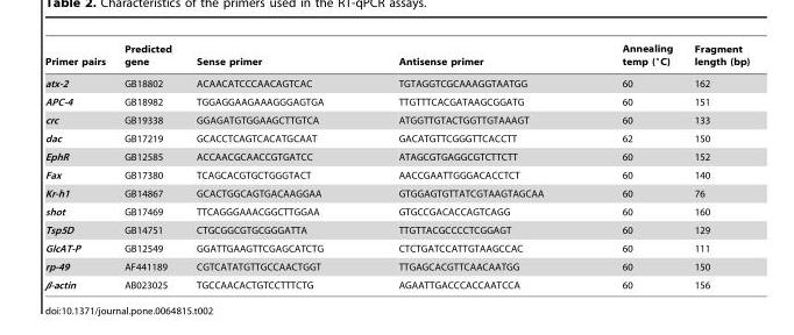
<table><thead><tr><td>Primer pairs</td><td>Predicted gene</td><td>Sense primer</td><td>Antisense primer</td><td>Annealing temp (°C)</td><td>Fragment length (bp)</td></tr></thead><tbody><tr><td>atx-2</td><td>GB18802</td><td>ACAACATCCCAACAGTCAC</td><td>TGTAGGTCGCAAAGGTAATGG</td><td>60</td><td>162</td></tr><tr><td>APC-4</td><td>GB18982</td><td>TGGAGGAAGAAAGGGAGTGA</td><td>TTGTTTCACGATAAGCGGATG</td><td>60</td><td>151</td></tr><tr><td>crc</td><td>GB19338</td><td>GGAGATGTGGAAGCTTGTCA</td><td>ATGGTTGTACTGGTTGTAAAGT</td><td>60</td><td>133</td></tr><tr><td>dac</td><td>GB17219</td><td>GCACCTCAGTCACATGCAAT</td><td>GACATGTTCGGGTTCACCTT</td><td>62</td><td>150</td></tr><tr><td>EphR</td><td>GB12585</td><td>ACCAACGCAACCGTGATCC</td><td>ATAGCGTGAGGCGTCTTCTT</td><td>60</td><td>152</td></tr><tr><td>Fax</td><td>GB17380</td><td>TCAGCACGTGCTGGGTACT</td><td>AACCGAATTGGGACACCTCT</td><td>60</td><td>140</td></tr><tr><td>Kr-h1</td><td>GB14867</td><td>GCACTGGCAGTGACAAGGAA</td><td>GTGGAGTGTTATCGTAAGTAGCAA</td><td>60</td><td>76</td></tr><tr><td>shot</td><td>GB17469</td><td>TTCAGGGAAACGGCTTGGAA</td><td>GTGCCGACACCAGTCAGG</td><td>60</td><td>160</td></tr><tr><td>Tsp5D</td><td>GB14751</td><td>CTGCGGCGTGCGGGATTA</td><td>TTGTTACGCCCCTCGGAGT</td><td>60</td><td>129</td></tr><tr><td>GlcAT-P</td><td>GB12549</td><td>GGATTGAAGTTCGAGCATCTG</td><td>CTCTGATCCATTGTAAGCCAC</td><td>60</td><td>111</td></tr><tr><td>rp-49</td><td>AF441189</td><td>CGTCATATGTTGCCAACTGGT</td><td>TTGAGCACGTTCAACAATGG</td><td>60</td><td>150</td></tr><tr><td>β-actin</td><td>AB023025</td><td>TGCCAACACTGTCCTTTCTG</td><td>AGAATTGACCCACCAATCCA</td><td>60</td><td>156</td></tr></tbody></table>